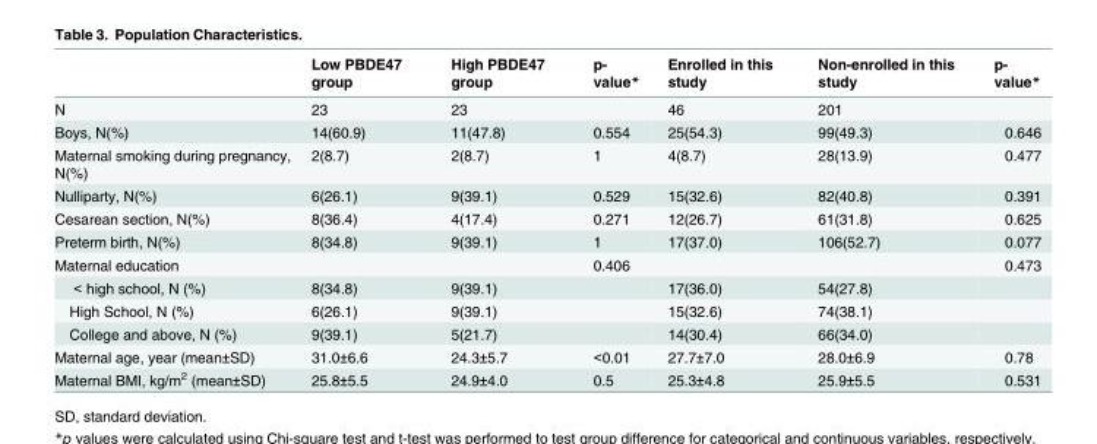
<table><thead><tr><td></td><td>Low PBDE47 group</td><td>High PBDE47 group</td><td>p- value*</td><td>Enrolled in this study</td><td>Non-enrolled in this study</td><td>p- value*</td></tr></thead><tbody><tr><td>N</td><td>23</td><td>23</td><td></td><td>46</td><td>201</td><td></td></tr><tr><td>Boys, N(%)</td><td>14(60.9)</td><td>11(47.8)</td><td>0.554</td><td>25(54.3)</td><td>99(49.3)</td><td>0.646</td></tr><tr><td>Maternal smoking during pregnancy, N(%)</td><td>2(8.7)</td><td>2(8.7)</td><td>1</td><td>4(8.7)</td><td>28(13.9)</td><td>0.477</td></tr><tr><td>Nulliparty, N(%)</td><td>6(26.1)</td><td>9(39.1)</td><td>0.529</td><td>15(32.6)</td><td>82(40.8)</td><td>0.391</td></tr><tr><td>Cesarean section, N(%)</td><td>8(36.4)</td><td>4(17.4)</td><td>0.271</td><td>12(26.7)</td><td>61(31.8)</td><td>0.625</td></tr><tr><td>Preterm birth, N(%)</td><td>8(34.8)</td><td>9(39.1)</td><td>1</td><td>17(37.0)</td><td>106(52.7)</td><td>0.077</td></tr><tr><td>Maternal education</td><td></td><td></td><td>0.406</td><td></td><td></td><td>0.473</td></tr><tr><td>&lt; high school, N (%)</td><td>8(34.8)</td><td>9(39.1)</td><td></td><td>17(36.0)</td><td>54(27.8)</td><td></td></tr><tr><td>High School, N (%)</td><td>6(26.1)</td><td>9(39.1)</td><td></td><td>15(32.6)</td><td>74(38.1)</td><td></td></tr><tr><td>College and above, N (%)</td><td>9(39.1)</td><td>5(21.7)</td><td></td><td>14(30.4)</td><td>66(34.0)</td><td></td></tr><tr><td>Maternal age, year (mean±SD)</td><td>31.0±6.6</td><td>24.3±5.7</td><td>&lt;0.01</td><td>27.7±7.0</td><td>28.0±6.9</td><td>0.78</td></tr><tr><td>Maternal BMI, kg/m<sup>2</sup> (mean±SD)</td><td>25.8±5.5</td><td>24.9±4.0</td><td>0.5</td><td>25.3±4.8</td><td>25.9±5.5</td><td>0.531</td></tr></tbody></table>